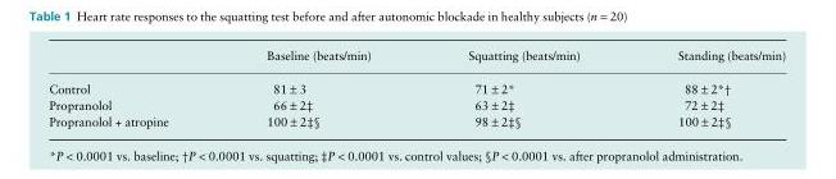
<table><thead><tr><td></td><td>Baseline (beats/min)</td><td>Squatting (beats/min)</td><td>Standing (beats/min)</td></tr></thead><tbody><tr><td>Control</td><td>81 ± 3</td><td>71 ± 2*</td><td>88 ± 2*†</td></tr><tr><td>Propranolol</td><td>66 ± 2‡</td><td>63 ± 2‡</td><td>72 ± 2‡</td></tr><tr><td>Propranolol + atropine</td><td>100 ± 2‡§</td><td>98 ± 2‡§</td><td>100 ± 2‡§</td></tr></tbody></table>